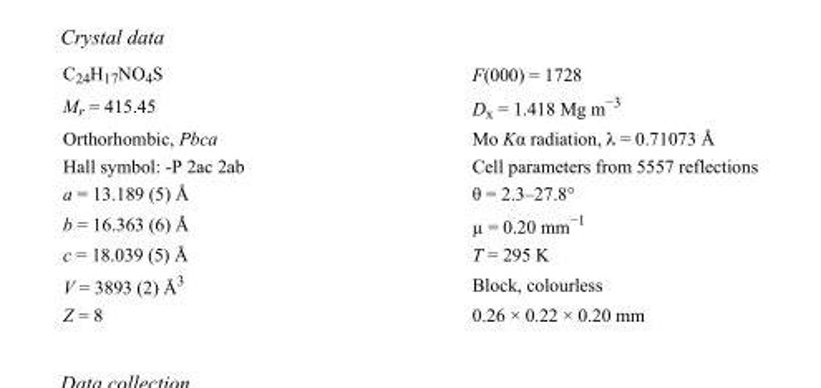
<table><tbody><tr><td>C<sub>24</sub>H<sub>17</sub>NO<sub>4</sub>S</td><td>F(000) = 1728</td></tr><tr><td>M<sub>r</sub> = 415.45</td><td>D<sub>x</sub> = 1.418 Mg m<sup>−3</sup></td></tr><tr><td>Orthorhombic, Pbca</td><td>Mo Kα radiation, λ = 0.71073 Å</td></tr><tr><td>Hall symbol: -P 2ac 2ab</td><td>Cell parameters from 5557 reflections</td></tr><tr><td>a = 13.189 (5) Å</td><td>θ = 2.3–27.8°</td></tr><tr><td>b = 16.363 (6) Å</td><td>µ = 0.20 mm<sup>−1</sup></td></tr><tr><td>c = 18.039 (5) Å</td><td>T = 295 K</td></tr><tr><td>V = 3893 (2) Å<sup>3</sup></td><td>Block, colourless</td></tr><tr><td>Z = 8</td><td>0.26 × 0.22 × 0.20 mm</td></tr></tbody></table>